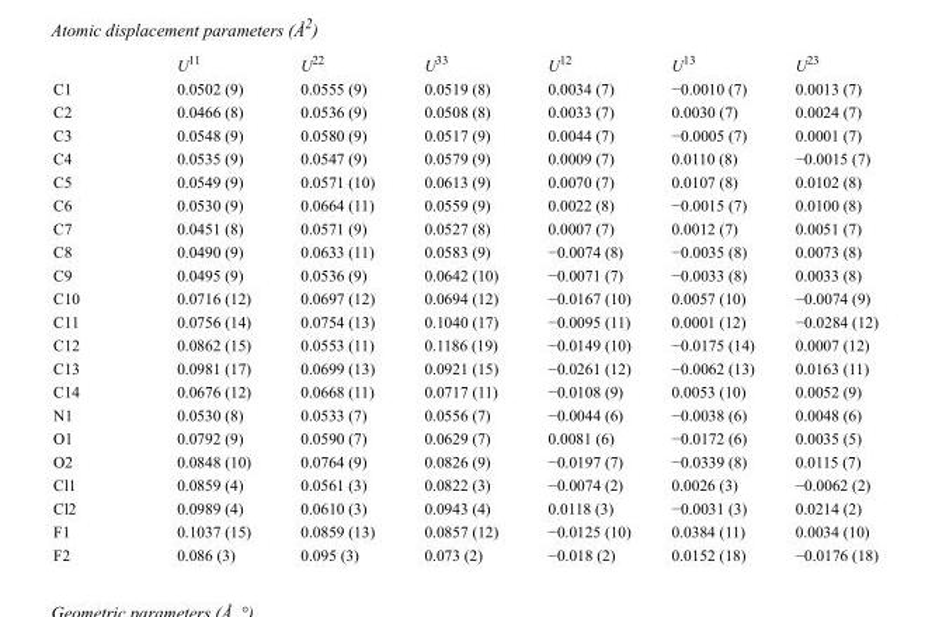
<table><thead><tr><td></td><td>U<sup>11</sup></td><td>U<sup>22</sup></td><td>U<sup>33</sup></td><td>U<sup>12</sup></td><td>U<sup>13</sup></td><td>U<sup>23</sup></td></tr></thead><tbody><tr><td>C1</td><td>0.0502 (9)</td><td>0.0555 (9)</td><td>0.0519 (8)</td><td>0.0034 (7)</td><td>−0.0010 (7)</td><td>0.0013 (7)</td></tr><tr><td>C2</td><td>0.0466 (8)</td><td>0.0536 (9)</td><td>0.0508 (8)</td><td>0.0033 (7)</td><td>0.0030 (7)</td><td>0.0024 (7)</td></tr><tr><td>C3</td><td>0.0548 (9)</td><td>0.0580 (9)</td><td>0.0517 (9)</td><td>0.0044 (7)</td><td>−0.0005 (7)</td><td>0.0001 (7)</td></tr><tr><td>C4</td><td>0.0535 (9)</td><td>0.0547 (9)</td><td>0.0579 (9)</td><td>0.0009 (7)</td><td>0.0110 (8)</td><td>−0.0015 (7)</td></tr><tr><td>C5</td><td>0.0549 (9)</td><td>0.0571 (10)</td><td>0.0613 (9)</td><td>0.0070 (7)</td><td>0.0107 (8)</td><td>0.0102 (8)</td></tr><tr><td>C6</td><td>0.0530 (9)</td><td>0.0664 (11)</td><td>0.0559 (9)</td><td>0.0022 (8)</td><td>−0.0015 (7)</td><td>0.0100 (8)</td></tr><tr><td>C7</td><td>0.0451 (8)</td><td>0.0571 (9)</td><td>0.0527 (8)</td><td>0.0007 (7)</td><td>0.0012 (7)</td><td>0.0051 (7)</td></tr><tr><td>C8</td><td>0.0490 (9)</td><td>0.0633 (11)</td><td>0.0583 (9)</td><td>−0.0074 (8)</td><td>−0.0035 (8)</td><td>0.0073 (8)</td></tr><tr><td>C9</td><td>0.0495 (9)</td><td>0.0536 (9)</td><td>0.0642 (10)</td><td>−0.0071 (7)</td><td>−0.0033 (8)</td><td>0.0033 (8)</td></tr><tr><td>C10</td><td>0.0716 (12)</td><td>0.0697 (12)</td><td>0.0694 (12)</td><td>−0.0167 (10)</td><td>0.0057 (10)</td><td>−0.0074 (9)</td></tr><tr><td>C11</td><td>0.0756 (14)</td><td>0.0754 (13)</td><td>0.1040 (17)</td><td>−0.0095 (11)</td><td>0.0001 (12)</td><td>−0.0284 (12)</td></tr><tr><td>C12</td><td>0.0862 (15)</td><td>0.0553 (11)</td><td>0.1186 (19)</td><td>−0.0149 (10)</td><td>−0.0175 (14)</td><td>0.0007 (12)</td></tr><tr><td>C13</td><td>0.0981 (17)</td><td>0.0699 (13)</td><td>0.0921 (15)</td><td>−0.0261 (12)</td><td>−0.0062 (13)</td><td>0.0163 (11)</td></tr><tr><td>C14</td><td>0.0676 (12)</td><td>0.0668 (11)</td><td>0.0717 (11)</td><td>−0.0108 (9)</td><td>0.0053 (10)</td><td>0.0052 (9)</td></tr><tr><td>N1</td><td>0.0530 (8)</td><td>0.0533 (7)</td><td>0.0556 (7)</td><td>−0.0044 (6)</td><td>−0.0038 (6)</td><td>0.0048 (6)</td></tr><tr><td>O1</td><td>0.0792 (9)</td><td>0.0590 (7)</td><td>0.0629 (7)</td><td>0.0081 (6)</td><td>−0.0172 (6)</td><td>0.0035 (5)</td></tr><tr><td>O2</td><td>0.0848 (10)</td><td>0.0764 (9)</td><td>0.0826 (9)</td><td>−0.0197 (7)</td><td>−0.0339 (8)</td><td>0.0115 (7)</td></tr><tr><td>Cl1</td><td>0.0859 (4)</td><td>0.0561 (3)</td><td>0.0822 (3)</td><td>−0.0074 (2)</td><td>0.0026 (3)</td><td>−0.0062 (2)</td></tr><tr><td>Cl2</td><td>0.0989 (4)</td><td>0.0610 (3)</td><td>0.0943 (4)</td><td>0.0118 (3)</td><td>−0.0031 (3)</td><td>0.0214 (2)</td></tr><tr><td>F1</td><td>0.1037 (15)</td><td>0.0859 (13)</td><td>0.0857 (12)</td><td>−0.0125 (10)</td><td>0.0384 (11)</td><td>0.0034 (10)</td></tr><tr><td>F2</td><td>0.086 (3)</td><td>0.095 (3)</td><td>0.073 (2)</td><td>−0.018 (2)</td><td>0.0152 (18)</td><td>−0.0176 (18)</td></tr></tbody></table>